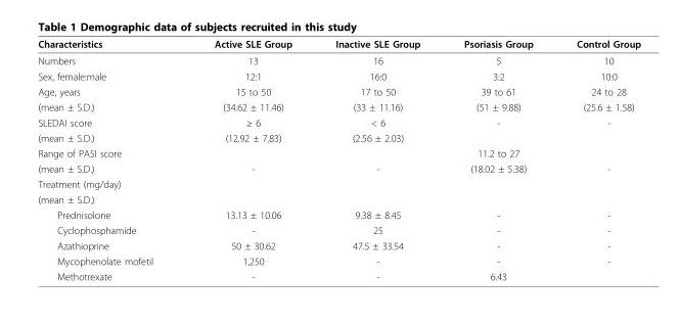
<table><thead><tr><td>Characteristics</td><td>Active SLE Group</td><td>Inactive SLE Group</td><td>Psoriasis Group</td><td>Control Group</td></tr></thead><tbody><tr><td>Numbers</td><td>13</td><td>16</td><td>5</td><td>10</td></tr><tr><td>Sex, female:male</td><td>12:1</td><td>16:0</td><td>3:2</td><td>10:0</td></tr><tr><td>Age, years</td><td>15 to 50</td><td>17 to 50</td><td>39 to 61</td><td>24 to 28</td></tr><tr><td>(mean ± S.D.)</td><td>(34.62 ± 11.46)</td><td>(33 ± 11.16)</td><td>(51 ± 9.88)</td><td>(25.6 ± 1.58)</td></tr><tr><td>SLEDAI score</td><td>≥ 6</td><td>&lt; 6</td><td>-</td><td>-</td></tr><tr><td>(mean ± S.D.)</td><td>(12.92 ± 7.83)</td><td>(2.56 ± 2.03)</td><td></td><td></td></tr><tr><td>Range of PASI score</td><td></td><td></td><td>11.2 to 27</td><td></td></tr><tr><td>(mean ± S.D.)</td><td>-</td><td>-</td><td>(18.02 ± 5.38)</td><td>-</td></tr><tr><td colspan="5">Treatment (mg/day)</td></tr><tr><td colspan="5">(mean ± S.D.)</td></tr><tr><td>Prednisolone</td><td>13.13 ± 10.06</td><td>9.38 ± 8.45</td><td>-</td><td>-</td></tr><tr><td>Cyclophosphamide</td><td>-</td><td>25</td><td>-</td><td>-</td></tr><tr><td>Azathioprine</td><td>50 ± 30.62</td><td>47.5 ± 33.54</td><td>-</td><td>-</td></tr><tr><td>Mycophenolate mofetil</td><td>1,250</td><td>-</td><td>-</td><td>-</td></tr><tr><td>Methotrexate</td><td>-</td><td>-</td><td>6.43</td><td></td></tr></tbody></table>